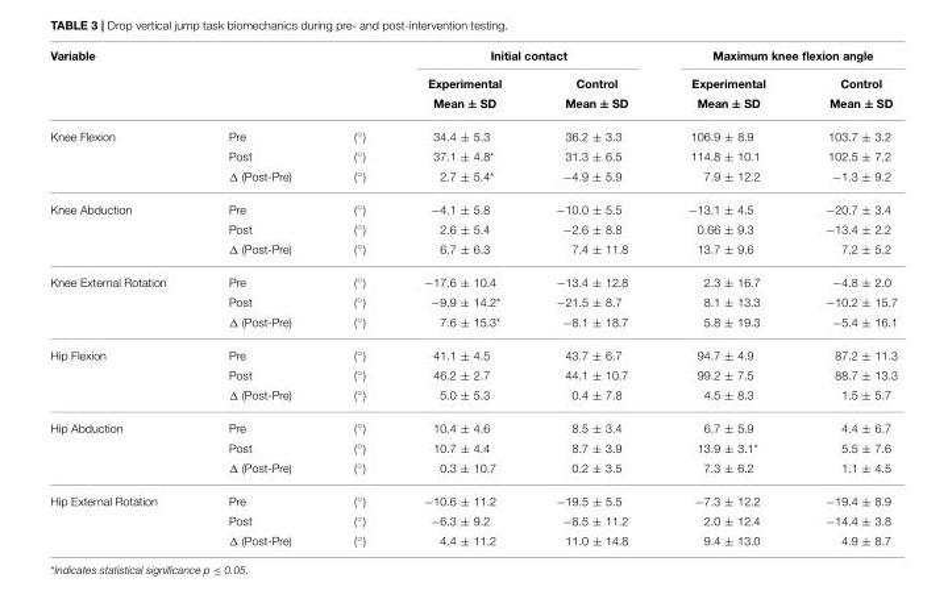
<table><thead><tr><td colspan="3">Variable</td><td colspan="2">Initial contact</td><td colspan="2">Maximum knee flexion angle</td></tr><tr><td rowspan="2"></td><td rowspan="2"></td><td rowspan="2"></td><td rowspan="2">Experimental Mean ± SD</td><td rowspan="2">Control Mean ± SD</td><td rowspan="2">Experimental Mean ± SD</td><td rowspan="2">Control Mean ± SD</td></tr><tr></tr></thead><tbody><tr><td rowspan="3">Knee Flexion</td><td>Pre</td><td>(◦)</td><td>34.4 ± 5.3</td><td>36.2 ± 3.3</td><td>106.9 ± 8.9</td><td>103.7 ± 3.2</td></tr><tr><td>Post</td><td>(◦)</td><td>37.1 ± 4.8*</td><td>31.3 ± 6.5</td><td>114.8 ± 10.1</td><td>102.5 ± 7.2</td></tr><tr><td>Δ (Post-Pre)</td><td>(◦)</td><td>2.7 ± 5.4*</td><td>−4.9 ± 5.9</td><td>7.9 ± 12.2</td><td>−1.3 ± 9.2</td></tr><tr><td rowspan="3">Knee Abduction</td><td>Pre</td><td>(◦)</td><td>−4.1 ± 5.8</td><td>−10.0 ± 5.5</td><td>−13.1 ± 4.5</td><td>−20.7 ± 3.4</td></tr><tr><td>Post</td><td>(◦)</td><td>2.6 ± 5.4</td><td>−2.6 ± 8.8</td><td>0.66 ± 9.3</td><td>−13.4 ± 2.2</td></tr><tr><td>Δ (Post-Pre)</td><td>(◦)</td><td>6.7 ± 6.3</td><td>7.4 ± 11.8</td><td>13.7 ± 9.6</td><td>7.2 ± 5.2</td></tr><tr><td rowspan="3">Knee External Rotation</td><td>Pre</td><td>(◦)</td><td>−17.6 ± 10.4</td><td>−13.4 ± 12.8</td><td>2.3 ± 16.7</td><td>−4.8 ± 2.0</td></tr><tr><td>Post</td><td>(◦)</td><td>−9.9 ± 14.2*</td><td>−21.5 ± 8.7</td><td>8.1 ± 13.3</td><td>−10.2 ± 15.7</td></tr><tr><td>Δ (Post-Pre)</td><td>(◦)</td><td>7.6 ± 15.3*</td><td>−8.1 ± 18.7</td><td>5.8 ± 19.3</td><td>−5.4 ± 16.1</td></tr><tr><td rowspan="3">Hip Flexion</td><td>Pre</td><td>(◦)</td><td>41.1 ± 4.5</td><td>43.7 ± 6.7</td><td>94.7 ± 4.9</td><td>87.2 ± 11.3</td></tr><tr><td>Post</td><td>(◦)</td><td>46.2 ± 2.7</td><td>44.1 ± 10.7</td><td>99.2 ± 7.5</td><td>88.7 ± 13.3</td></tr><tr><td>Δ (Post-Pre)</td><td>(◦)</td><td>5.0 ± 5.3</td><td>0.4 ± 7.8</td><td>4.5 ± 8.3</td><td>1.5 ± 5.7</td></tr><tr><td rowspan="3">Hip Abduction</td><td>Pre</td><td>(◦)</td><td>10.4 ± 4.6</td><td>8.5 ± 3.4</td><td>6.7 ± 5.9</td><td>4.4 ± 6.7</td></tr><tr><td>Post</td><td>(◦)</td><td>10.7 ± 4.4</td><td>8.7 ± 3.9</td><td>13.9 ± 3.1*</td><td>5.5 ± 7.6</td></tr><tr><td>Δ (Post-Pre)</td><td>(◦)</td><td>0.3 ± 10.7</td><td>0.2 ± 3.5</td><td>7.3 ± 6.2</td><td>1.1 ± 4.5</td></tr><tr><td rowspan="3">Hip External Rotation</td><td>Pre</td><td>(◦)</td><td>−10.6 ± 11.2</td><td>−19.5 ± 5.5</td><td>−7.3 ± 12.2</td><td>−19.4 ± 8.9</td></tr><tr><td>Post</td><td>(◦)</td><td>−6.3 ± 9.2</td><td>−8.5 ± 11.2</td><td>2.0 ± 12.4</td><td>−14.4 ± 3.8</td></tr><tr><td>Δ (Post-Pre)</td><td>(◦)</td><td>4.4 ± 11.2</td><td>11.0 ± 14.8</td><td>9.4 ± 13.0</td><td>4.9 ± 8.7</td></tr></tbody></table>